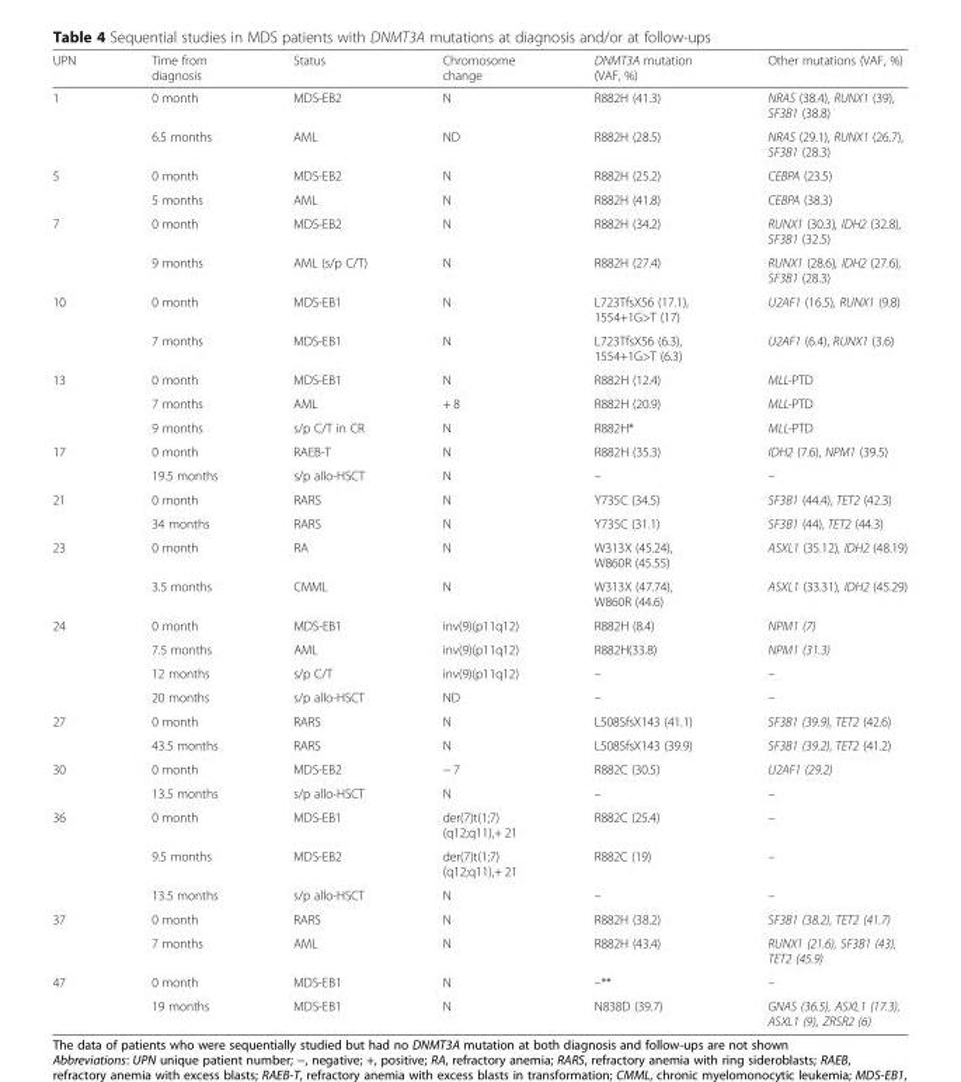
<table><thead><tr><td>UPN</td><td>Time from diagnosis</td><td>Status</td><td>Chromosome change</td><td>DNMT3A mutation (VAF, %)</td><td>Other mutations (VAF, %)</td></tr></thead><tbody><tr><td rowspan="2">1</td><td>0 month</td><td>MDS-EB2</td><td>N</td><td>R882H (41.3)</td><td>NRAS (38.4), RUNX1 (39), SF3B1 (38.8)</td></tr><tr><td>6.5 months</td><td>AML</td><td>ND</td><td>R882H (28.5)</td><td>NRAS (29.1), RUNX1 (26.7), SF3B1 (28.3)</td></tr><tr><td rowspan="2">5</td><td>0 month</td><td>MDS-EB2</td><td>N</td><td>R882H (25.2)</td><td>CEBPA (23.5)</td></tr><tr><td>5 months</td><td>AML</td><td>N</td><td>R882H (41.8)</td><td>CEBPA (38.3)</td></tr><tr><td rowspan="2">7</td><td>0 month</td><td>MDS-EB2</td><td>N</td><td>R882H (34.2)</td><td>RUNX1 (30.3), IDH2 (32.8), SF3B1 (32.5)</td></tr><tr><td>9 months</td><td>AML (s/p C/T)</td><td>N</td><td>R882H (27.4)</td><td>RUNX1 (28.6), IDH2 (27.6), SF3B1 (28.3)</td></tr><tr><td rowspan="2">10</td><td>0 month</td><td>MDS-EB1</td><td>N</td><td>L723TfsX56 (17.1), 1554+1G&gt;T (17)</td><td>U2AF1 (16.5), RUNX1 (9.8)</td></tr><tr><td>7 months</td><td>MDS-EB1</td><td>N</td><td>L723TfsX56 (6.3), 1554+1G&gt;T (6.3)</td><td>U2AF1 (6.4), RUNX1 (3.6)</td></tr><tr><td rowspan="3">13</td><td>0 month</td><td>MDS-EB1</td><td>N</td><td>R882H (12.4)</td><td>MLL-PTD</td></tr><tr><td>7 months</td><td>AML</td><td>+ 8</td><td>R882H (20.9)</td><td>MLL-PTD</td></tr><tr><td>9 months</td><td>s/p C/T in CR</td><td>N</td><td>R882H*</td><td>MLL-PTD</td></tr><tr><td rowspan="2">17</td><td>0 month</td><td>RAEB-T</td><td>N</td><td>R882H (35.3)</td><td>IDH2 (7.6), NPM1 (39.5)</td></tr><tr><td>19.5 months</td><td>s/p allo-HSCT</td><td>N</td><td>–</td><td>–</td></tr><tr><td rowspan="2">21</td><td>0 month</td><td>RARS</td><td>N</td><td>Y735C (34.5)</td><td>SF3B1 (44.4), TET2 (42.3)</td></tr><tr><td>34 months</td><td>RARS</td><td>N</td><td>Y735C (31.1)</td><td>SF3B1 (44), TET2 (44.3)</td></tr><tr><td rowspan="2">23</td><td>0 month</td><td>RA</td><td>N</td><td>W313X (45.24), W860R (45.55)</td><td>ASXL1 (35.12), IDH2 (48.19)</td></tr><tr><td>3.5 months</td><td>CMML</td><td>N</td><td>W313X (47.74), W860R (44.6)</td><td>ASXL1 (33.31), IDH2 (45.29)</td></tr><tr><td rowspan="4">24</td><td>0 month</td><td>MDS-EB1</td><td>inv(9)(p11q12)</td><td>R882H (8.4)</td><td>NPM1 (7)</td></tr><tr><td>7.5 months</td><td>AML</td><td>inv(9)(p11q12)</td><td>R882H(33.8)</td><td>NPM1 (31.3)</td></tr><tr><td>12 months</td><td>s/p C/T</td><td>inv(9)(p11q12)</td><td>–</td><td>–</td></tr><tr><td>20 months</td><td>s/p allo-HSCT</td><td>ND</td><td>–</td><td>–</td></tr><tr><td rowspan="2">27</td><td>0 month</td><td>RARS</td><td>N</td><td>L508SfsX143 (41.1)</td><td>SF3B1 (39.9), TET2 (42.6)</td></tr><tr><td>43.5 months</td><td>RARS</td><td>N</td><td>L508SfsX143 (39.9)</td><td>SF3B1 (39.2), TET2 (41.2)</td></tr><tr><td rowspan="2">30</td><td>0 month</td><td>MDS-EB2</td><td>− 7</td><td>R882C (30.5)</td><td>U2AF1 (29.2)</td></tr><tr><td>13.5 months</td><td>s/p allo-HSCT</td><td>N</td><td>–</td><td>–</td></tr><tr><td rowspan="3">36</td><td>0 month</td><td>MDS-EB1</td><td>der(7)t(1;7) (q12;q11),+ 21</td><td>R882C (25.4)</td><td>–</td></tr><tr><td>9.5 months</td><td>MDS-EB2</td><td>der(7)t(1;7) (q12;q11),+ 21</td><td>R882C (19)</td><td>–</td></tr><tr><td>13.5 months</td><td>s/p allo-HSCT</td><td>N</td><td>–</td><td>–</td></tr><tr><td rowspan="2">37</td><td>0 month</td><td>RARS</td><td>N</td><td>R882H (38.2)</td><td>SF3B1 (38.2), TET2 (41.7)</td></tr><tr><td>7 months</td><td>AML</td><td>N</td><td>R882H (43.4)</td><td>RUNX1 (21.6), SF3B1 (43), TET2 (45.9)</td></tr><tr><td rowspan="2">47</td><td>0 month</td><td>MDS-EB1</td><td>N</td><td>–**</td><td>–</td></tr><tr><td>19 months</td><td>MDS-EB1</td><td>N</td><td>N838D (39.7)</td><td>GNAS (36.5), ASXL1 (17.3), ASXL1 (9), ZRSR2 (6)</td></tr></tbody></table>